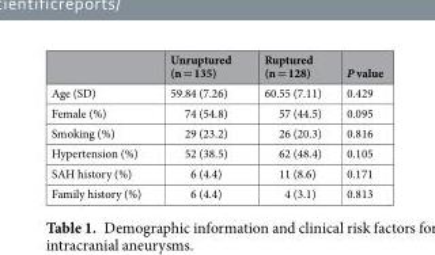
<table><thead><tr><td></td><td>Unruptured (n = 135)</td><td>Ruptured (n = 128)</td><td>P value</td></tr></thead><tbody><tr><td>Age (SD)</td><td>59.84 (7.26)</td><td>60.55 (7.11)</td><td>0.429</td></tr><tr><td>Female (%)</td><td>74 (54.8)</td><td>57 (44.5)</td><td>0.095</td></tr><tr><td>Smoking (%)</td><td>29 (23.2)</td><td>26 (20.3)</td><td>0.816</td></tr><tr><td>Hypertension (%)</td><td>52 (38.5)</td><td>62 (48.4)</td><td>0.105</td></tr><tr><td>SAH history (%)</td><td>6 (4.4)</td><td>11 (8.6)</td><td>0.171</td></tr><tr><td>Family history (%)</td><td>6 (4.4)</td><td>4 (3.1)</td><td>0.813</td></tr></tbody></table>